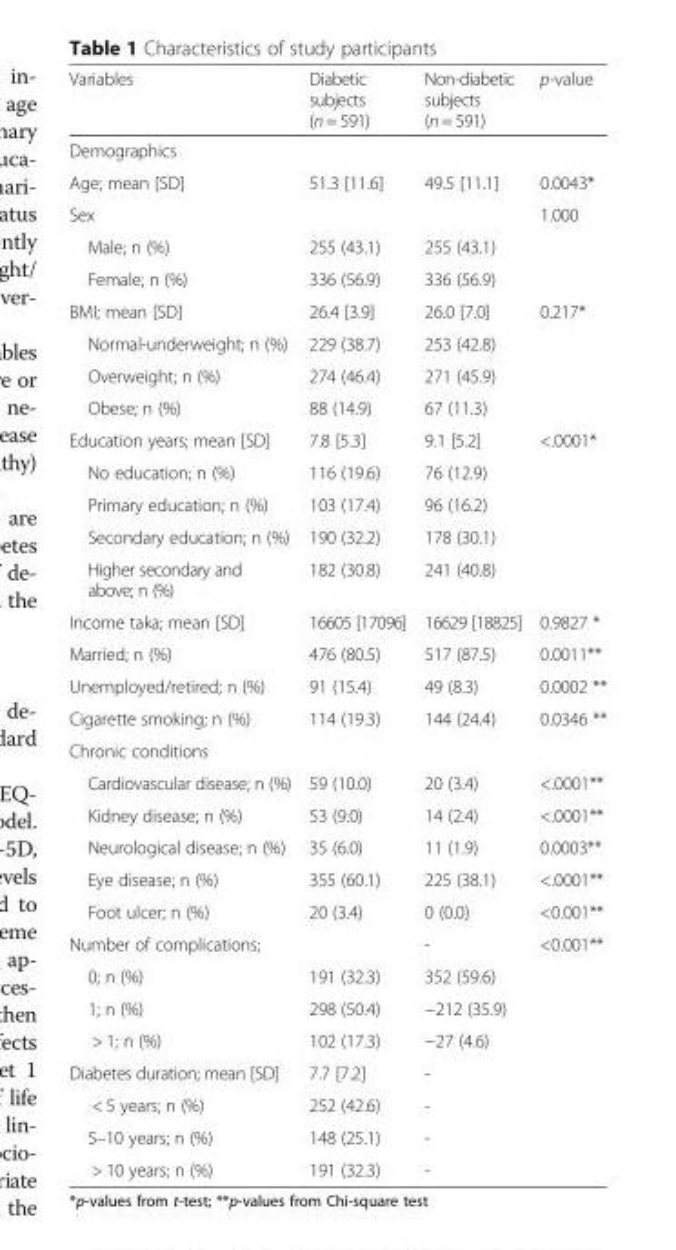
<table><thead><tr><td>Variables</td><td>Diabetic subjects (n = 591)</td><td>Non-diabetic subjects (n = 591)</td><td>p-value</td></tr></thead><tbody><tr><td colspan="4">Demographics</td></tr><tr><td>Age; mean [SD]</td><td>51.3 [11.6]</td><td>49.5 [11.1]</td><td>0.0043*</td></tr><tr><td>Sex</td><td></td><td></td><td>1.000</td></tr><tr><td>Male; n (%)</td><td>255 (43.1)</td><td>255 (43.1)</td><td></td></tr><tr><td>Female; n (%)</td><td>336 (56.9)</td><td>336 (56.9)</td><td></td></tr><tr><td>BMI; mean [SD]</td><td>26.4 [3.9]</td><td>26.0 [7.0]</td><td>0.217*</td></tr><tr><td>Normal-underweight; n (%)</td><td>229 (38.7)</td><td>253 (42.8)</td><td></td></tr><tr><td>Overweight; n (%)</td><td>274 (46.4)</td><td>271 (45.9)</td><td></td></tr><tr><td>Obese; n (%)</td><td>88 (14.9)</td><td>67 (11.3)</td><td></td></tr><tr><td>Education years; mean [SD]</td><td>7.8 [5.3]</td><td>9.1 [5.2]</td><td>&lt;.0001*</td></tr><tr><td>No education; n (%)</td><td>116 (19.6)</td><td>76 (12.9)</td><td></td></tr><tr><td>Primary education; n (%)</td><td>103 (17.4)</td><td>96 (16.2)</td><td></td></tr><tr><td>Secondary education; n (%)</td><td>190 (32.2)</td><td>178 (30.1)</td><td></td></tr><tr><td>Higher secondary and above; n (%)</td><td>182 (30.8)</td><td>241 (40.8)</td><td></td></tr><tr><td>Income taka; mean [SD]</td><td>16605 [17096]</td><td>16629 [18825]</td><td>0.9827 *</td></tr><tr><td>Married; n (%)</td><td>476 (80.5)</td><td>517 (87.5)</td><td>0.0011**</td></tr><tr><td>Unemployed/retired; n (%)</td><td>91 (15.4)</td><td>49 (8.3)</td><td>0.0002 **</td></tr><tr><td>Cigarette smoking; n (%)</td><td>114 (19.3)</td><td>144 (24.4)</td><td>0.0346 **</td></tr><tr><td colspan="4">Chronic conditions</td></tr><tr><td>Cardiovascular disease; n (%)</td><td>59 (10.0)</td><td>20 (3.4)</td><td>&lt;.0001**</td></tr><tr><td>Kidney disease; n (%)</td><td>53 (9.0)</td><td>14 (2.4)</td><td>&lt;.0001**</td></tr><tr><td>Neurological disease; n (%)</td><td>35 (6.0)</td><td>11 (1.9)</td><td>0.0003**</td></tr><tr><td>Eye disease; n (%)</td><td>355 (60.1)</td><td>225 (38.1)</td><td>&lt;.0001**</td></tr><tr><td>Foot ulcer; n (%)</td><td>20 (3.4)</td><td>0 (0.0)</td><td>&lt;0.001**</td></tr><tr><td>Number of complications;</td><td></td><td>-</td><td>&lt;0.001**</td></tr><tr><td>0; n (%)</td><td>191 (32.3)</td><td>352 (59.6)</td><td></td></tr><tr><td>1; n (%)</td><td>298 (50.4)</td><td>−212 (35.9)</td><td></td></tr><tr><td>&gt; 1; n (%)</td><td>102 (17.3)</td><td>−27 (4.6)</td><td></td></tr><tr><td>Diabetes duration; mean [SD]</td><td>7.7 [7.2]</td><td>-</td><td></td></tr><tr><td>&lt; 5 years; n (%)</td><td>252 (42.6)</td><td>-</td><td></td></tr><tr><td>5–10 years; n (%)</td><td>148 (25.1)</td><td>-</td><td></td></tr><tr><td>&gt; 10 years; n (%)</td><td>191 (32.3)</td><td>-</td><td></td></tr></tbody></table>